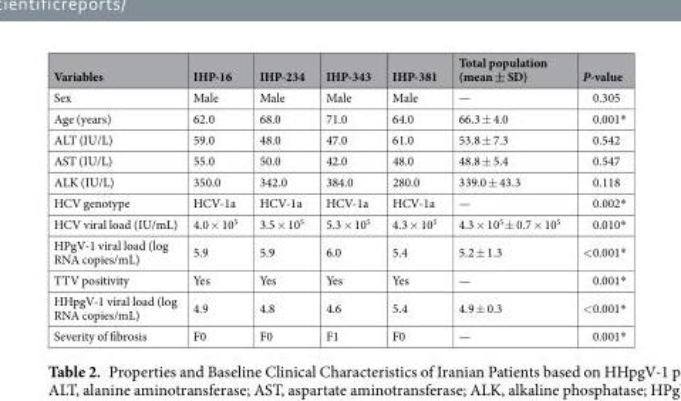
<table><thead><tr><td>Variables</td><td>IHP-16</td><td>IHP-234</td><td>IHP-343</td><td>IHP-381</td><td>Total population (mean ± SD)</td><td>P-value</td></tr></thead><tbody><tr><td>Sex</td><td>Male</td><td>Male</td><td>Male</td><td>Male</td><td>—</td><td>0.305</td></tr><tr><td>Age (years)</td><td>62.0</td><td>68.0</td><td>71.0</td><td>64.0</td><td>66.3 ± 4.0</td><td>0.001*</td></tr><tr><td>ALT (IU/L)</td><td>59.0</td><td>48.0</td><td>47.0</td><td>61.0</td><td>53.8 ± 7.3</td><td>0.542</td></tr><tr><td>AST (IU/L)</td><td>55.0</td><td>50.0</td><td>42.0</td><td>48.0</td><td>48.8 ± 5.4</td><td>0.547</td></tr><tr><td>ALK (IU/L)</td><td>350.0</td><td>342.0</td><td>384.0</td><td>280.0</td><td>339.0 ± 43.3</td><td>0.118</td></tr><tr><td>HCV genotype</td><td>HCV-1a</td><td>HCV-1a</td><td>HCV-1a</td><td>HCV-1a</td><td>—</td><td>0.002*</td></tr><tr><td>HCV viral load (IU/mL)</td><td>4.0 × 10<sup>5</sup></td><td>3.5 × 10<sup>5</sup></td><td>5.3 × 10<sup>5</sup></td><td>4.3 × 10<sup>5</sup></td><td>4.3 × 10<sup>5</sup> ± 0.7 × 10<sup>5</sup></td><td>0.010*</td></tr><tr><td>HPgV-1 viral load (log RNA copies/mL)</td><td>5.9</td><td>5.9</td><td>6.0</td><td>5.4</td><td>5.2 ± 1.3</td><td>&lt;0.001*</td></tr><tr><td>TTV positivity</td><td>Yes</td><td>Yes</td><td>Yes</td><td>Yes</td><td>—</td><td>0.001*</td></tr><tr><td>HHpgV-1 viral load (log RNA copies/mL)</td><td>4.9</td><td>4.8</td><td>4.6</td><td>5.4</td><td>4.9 ± 0.3</td><td>&lt;0.001*</td></tr><tr><td>Severity of fibrosis</td><td>F0</td><td>F0</td><td>F1</td><td>F0</td><td>—</td><td>0.001*</td></tr></tbody></table>